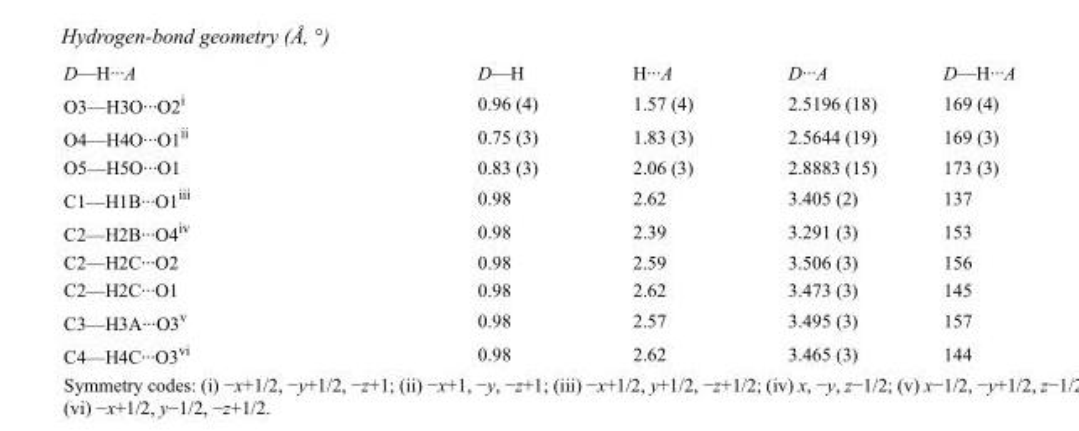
<table><tbody><tr><td>D—H···A</td><td>D—H</td><td>H···A</td><td>D···A</td><td>D—H···A</td></tr><tr><td>O3—H3O···O2<sup>i</sup></td><td>0.96 (4)</td><td>1.57 (4)</td><td>2.5196 (18)</td><td>169 (4)</td></tr><tr><td>O4—H4O···O1<sup>ii</sup></td><td>0.75 (3)</td><td>1.83 (3)</td><td>2.5644 (19)</td><td>169 (3)</td></tr><tr><td>O5—H5O···O1</td><td>0.83 (3)</td><td>2.06 (3)</td><td>2.8883 (15)</td><td>173 (3)</td></tr><tr><td>C1—H1B···O1<sup>iii</sup></td><td>0.98</td><td>2.62</td><td>3.405 (2)</td><td>137</td></tr><tr><td>C2—H2B···O4<sup>iv</sup></td><td>0.98</td><td>2.39</td><td>3.291 (3)</td><td>153</td></tr><tr><td>C2—H2C···O2</td><td>0.98</td><td>2.59</td><td>3.506 (3)</td><td>156</td></tr><tr><td>C2—H2C···O1</td><td>0.98</td><td>2.62</td><td>3.473 (3)</td><td>145</td></tr><tr><td>C3—H3A···O3<sup>v</sup></td><td>0.98</td><td>2.57</td><td>3.495 (3)</td><td>157</td></tr><tr><td>C4—H4C···O3<sup>vi</sup></td><td>0.98</td><td>2.62</td><td>3.465 (3)</td><td>144</td></tr></tbody></table>